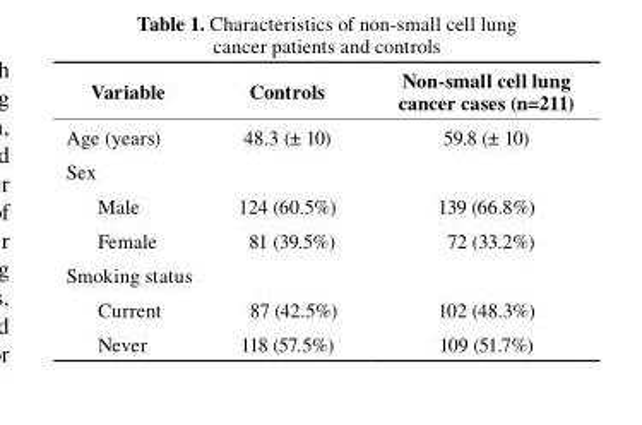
<table><thead><tr><td>Variable</td><td>controls</td><td>Non-small cell lung cancer cases (n=211)</td></tr></thead><tbody><tr><td>Age (years)</td><td>48.3 (± 10)</td><td>59.8 (± 10)</td></tr><tr><td colspan="3">Sex</td></tr><tr><td>Male</td><td>124 (60.5%)</td><td>139 (66.8%)</td></tr><tr><td>Female</td><td>81 (39.5%)</td><td>72 (33.2%)</td></tr><tr><td colspan="3">Smoking status</td></tr><tr><td>Current</td><td>87 (42.5%)</td><td>102 (48.3%)</td></tr><tr><td>Never</td><td>118 (57.5%)</td><td>109 (51.7%)</td></tr></tbody></table>